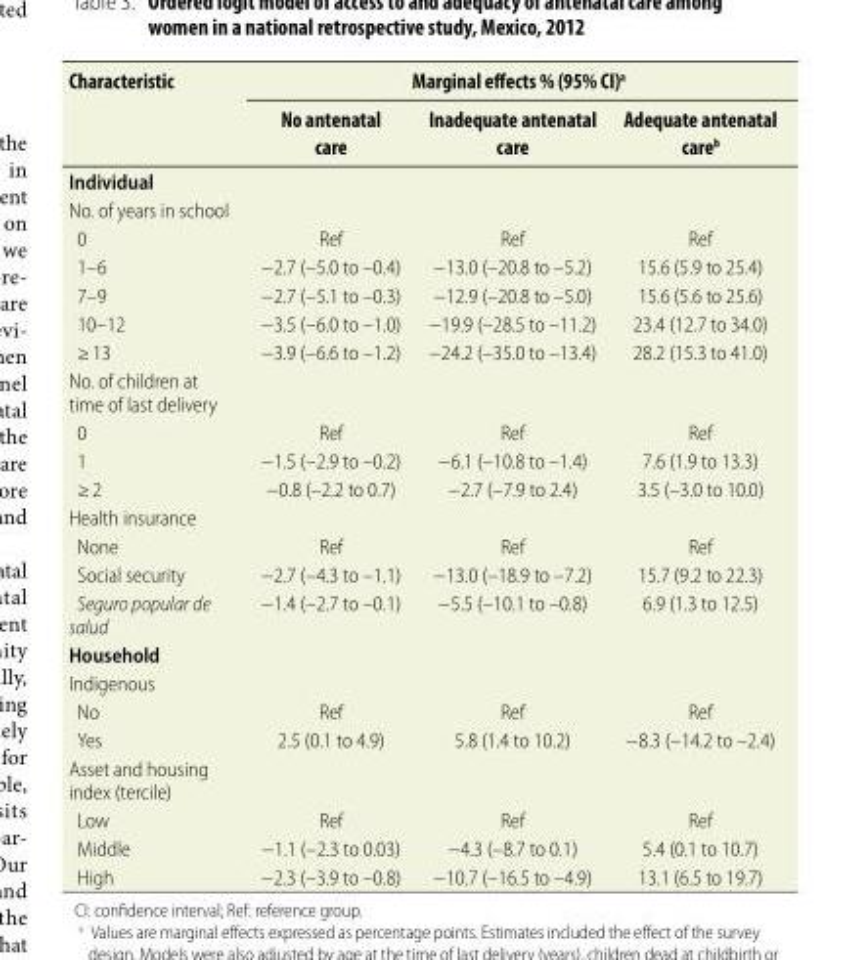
<table><thead><tr><td rowspan="2">Characteristic</td><td colspan="3">Marginal effects % (95% CI)<sup>a</sup></td></tr><tr><td>No antenatal care</td><td>Inadequate antenatal care</td><td>Adequate antenatal care<sup>b</sup></td></tr></thead><tbody><tr><td colspan="4">Individual</td></tr><tr><td colspan="4">No. of years in school</td></tr><tr><td>0</td><td>Ref</td><td>Ref</td><td>Ref</td></tr><tr><td>1–6</td><td>−2.7 (–5.0 to –0.4)</td><td>−13.0 (–20.8 to –5.2)</td><td>15.6 (5.9 to 25.4)</td></tr><tr><td>7–9</td><td>−2.7 (–5.1 to –0.3)</td><td>−12.9 (–20.8 to –5.0)</td><td>15.6 (5.6 to 25.6)</td></tr><tr><td>10–12</td><td>−3.5 (–6.0 to –1.0)</td><td>−19.9 (–28.5 to –11.2)</td><td>23.4 (12.7 to 34.0)</td></tr><tr><td>≥ 13</td><td>−3.9 (–6.6 to –1.2)</td><td>−24.2 (–35.0 to –13.4)</td><td>28.2 (15.3 to 41.0)</td></tr><tr><td colspan="4">No. of children at time of last delivery</td></tr><tr><td>0</td><td>Ref</td><td>Ref</td><td>Ref</td></tr><tr><td>1</td><td>−1.5 (–2.9 to –0.2)</td><td>−6.1 (–10.8 to –1.4)</td><td>7.6 (1.9 to 13.3)</td></tr><tr><td>≥ 2</td><td>−0.8 (–2.2 to 0.7)</td><td>−2.7 (–7.9 to 2.4)</td><td>3.5 (–3.0 to 10.0)</td></tr><tr><td colspan="4">Health insurance</td></tr><tr><td>None</td><td>Ref</td><td>Ref</td><td>Ref</td></tr><tr><td>Social security</td><td>−2.7 (–4.3 to –1.1)</td><td>−13.0 (–18.9 to –7.2)</td><td>15.7 (9.2 to 22.3)</td></tr><tr><td>Seguro popular de salud</td><td>−1.4 (–2.7 to –0.1)</td><td>−5.5 (–10.1 to –0.8)</td><td>6.9 (1.3 to 12.5)</td></tr><tr><td colspan="4">Household</td></tr><tr><td colspan="4">Indigenous</td></tr><tr><td>No</td><td>Ref</td><td>Ref</td><td>Ref</td></tr><tr><td>Yes</td><td>2.5 (0.1 to 4.9)</td><td>5.8 (1.4 to 10.2)</td><td>−8.3 (–14.2 to –2.4)</td></tr><tr><td colspan="4">Asset and housing index (tercile)</td></tr><tr><td>Low</td><td>Ref</td><td>Ref</td><td>Ref</td></tr><tr><td>Middle</td><td>−1.1 (–2.3 to 0.03)</td><td>−4.3 (–8.7 to 0.1)</td><td>5.4 (0.1 to 10.7)</td></tr><tr><td>High</td><td>−2.3 (–3.9 to –0.8)</td><td>−10.7 (–16.5 to –4.9)</td><td>13.1 (6.5 to 19.7)</td></tr></tbody></table>